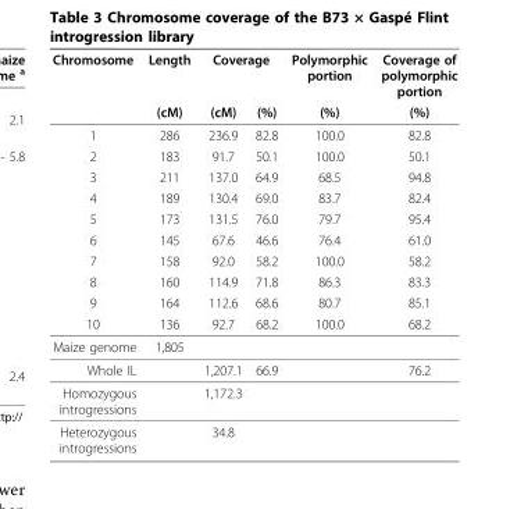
<table><thead><tr><td rowspan="2">Chromosome</td><td rowspan="2">Length (cM)</td><td colspan="2">Coverage</td><td rowspan="2">Polymorphic portion (%)</td><td rowspan="2">Coverage of polymorphic portion (%)</td></tr><tr><td>(cM)</td><td>(%)</td></tr></thead><tbody><tr><td>1</td><td>286</td><td>236.9</td><td>82.8</td><td>100.0</td><td>82.8</td></tr><tr><td>2</td><td>183</td><td>91.7</td><td>50.1</td><td>100.0</td><td>50.1</td></tr><tr><td>3</td><td>211</td><td>137.0</td><td>64.9</td><td>68.5</td><td>94.8</td></tr><tr><td>4</td><td>189</td><td>130.4</td><td>69.0</td><td>83.7</td><td>82.4</td></tr><tr><td>5</td><td>173</td><td>131.5</td><td>76.0</td><td>79.7</td><td>95.4</td></tr><tr><td>6</td><td>145</td><td>67.6</td><td>46.6</td><td>76.4</td><td>61.0</td></tr><tr><td>7</td><td>158</td><td>92.0</td><td>58.2</td><td>100.0</td><td>58.2</td></tr><tr><td>8</td><td>160</td><td>114.9</td><td>71.8</td><td>86.3</td><td>83.3</td></tr><tr><td>9</td><td>164</td><td>112.6</td><td>68.6</td><td>80.7</td><td>85.1</td></tr><tr><td>10</td><td>136</td><td>92.7</td><td>68.2</td><td>100.0</td><td>68.2</td></tr><tr><td>Maize genome</td><td>1,805</td><td></td><td></td><td></td><td></td></tr><tr><td>Whole IL</td><td></td><td>1,207.1</td><td>66.9</td><td></td><td>76.2</td></tr><tr><td>Homozygous introgressions</td><td></td><td>1,172.3</td><td></td><td></td><td></td></tr><tr><td>Heterozygous introgressions</td><td></td><td>34.8</td><td></td><td></td><td></td></tr></tbody></table>